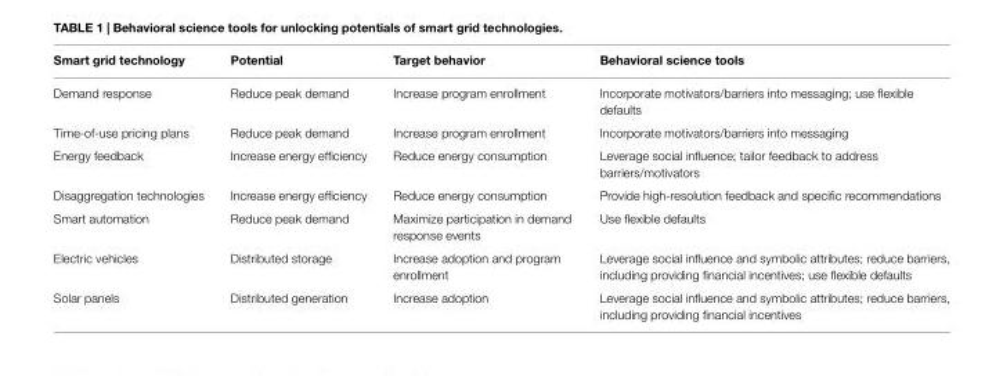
<table><thead><tr><td>Smart grid technology</td><td>Potential</td><td>Target behavior</td><td>Behavioral science tools</td></tr></thead><tbody><tr><td>Demand response</td><td>Reduce peak demand</td><td>Increase program enrollment</td><td>Incorporate motivators/barriers into messaging; use flexible defaults</td></tr><tr><td>Time-of-use pricing plans</td><td>Reduce peak demand</td><td>Increase program enrollment</td><td>Incorporate motivators/barriers into messaging</td></tr><tr><td>Energy feedback</td><td>Increase energy efficiency</td><td>Reduce energy consumption</td><td>Leverage social influence; tailor feedback to address barriers/motivators</td></tr><tr><td>Disaggregation technologies</td><td>Increase energy efficiency</td><td>Reduce energy consumption</td><td>Provide high-resolution feedback and specific recommendations</td></tr><tr><td>Smart automation</td><td>Reduce peak demand</td><td>Maximize participation in demand response events</td><td>Use flexible defaults</td></tr><tr><td>Electric vehicles</td><td>Distributed storage</td><td>Increase adoption and program enrollment</td><td>Leverage social influence and symbolic attributes; reduce barriers, including providing financial incentives; use flexible defaults</td></tr><tr><td>Solar panels</td><td>Distributed generation</td><td>Increase adoption</td><td>Leverage social influence and symbolic attributes; reduce barriers, including providing financial incentives</td></tr></tbody></table>